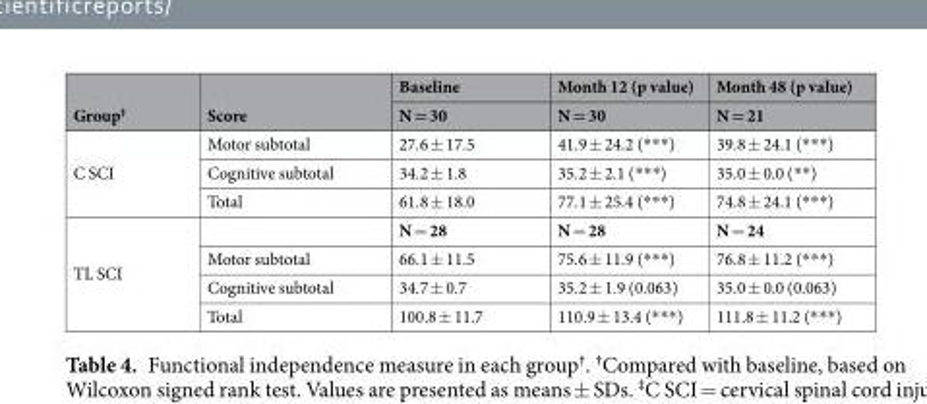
<table><thead><tr><td rowspan="2">Group<sup>‡</sup></td><td rowspan="2">Score</td><td rowspan="2">Baseline N = 30</td><td rowspan="2">Month 12 (p value) N = 30</td><td rowspan="2">Month 48 (p value) N = 21</td></tr><tr></tr></thead><tbody><tr><td rowspan="3">C SCI</td><td>Motor subtotal</td><td>27.6 ± 17.5</td><td>41.9 ± 24.2 (***)</td><td>39.8 ± 24.1 (***)</td></tr><tr><td>Cognitive subtotal</td><td>34.2 ± 1.8</td><td>35.2 ± 2.1 (***)</td><td>35.0 ± 0.0 (**)</td></tr><tr><td>Total</td><td>61.8 ± 18.0</td><td>77.1 ± 25.4 (***)</td><td>74.8 ± 24.1 (***)</td></tr><tr><td rowspan="4">TL SCI</td><td></td><td>N = 28</td><td>N = 28</td><td>N = 24</td></tr><tr><td>Motor subtotal</td><td>66.1 ± 11.5</td><td>75.6 ± 11.9 (***)</td><td>76.8 ± 11.2 (***)</td></tr><tr><td>Cognitive subtotal</td><td>34.7 ± 0.7</td><td>35.2 ± 1.9 (0.063)</td><td>35.0 ± 0.0 (0.063)</td></tr><tr><td>Total</td><td>100.8 ± 11.7</td><td>110.9 ± 13.4 (***)</td><td>111.8 ± 11.2 (***)</td></tr></tbody></table>